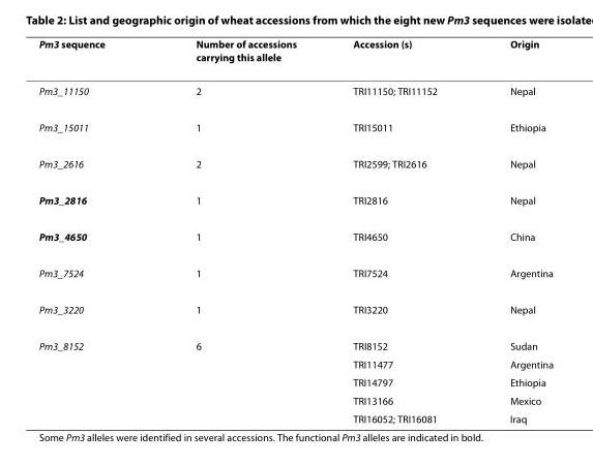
<table><thead><tr><td>Pm3 sequence</td><td>Number of accessions carrying this allele</td><td>Accession (s)</td><td>Origin</td></tr></thead><tbody><tr><td>Pm3_11150</td><td>2</td><td>TRI11150; TRI11152</td><td>Nepal</td></tr><tr><td>Pm3_15011</td><td>1</td><td>TRI15011</td><td>Ethiopia</td></tr><tr><td>Pm3_2616</td><td>2</td><td>TRI2599; TRI2616</td><td>Nepal</td></tr><tr><td>Pm3_2816</td><td>1</td><td>TRI2816</td><td>Nepal</td></tr><tr><td>Pm3_4650</td><td>1</td><td>TRI4650</td><td>China</td></tr><tr><td>Pm3_7524</td><td>1</td><td>TRI7524</td><td>Argentina</td></tr><tr><td>Pm3_3220</td><td>1</td><td>TRI3220</td><td>Nepal</td></tr><tr><td rowspan="5">Pm3_8152</td><td>6</td><td>TRI8152</td><td>Sudan</td></tr><tr><td></td><td>TRI11477</td><td>Argentina</td></tr><tr><td></td><td>TRI14797</td><td>Ethiopia</td></tr><tr><td></td><td>TRI13166</td><td>Mexico</td></tr><tr><td></td><td>TRI16052; TRI16081</td><td>Iraq</td></tr></tbody></table>